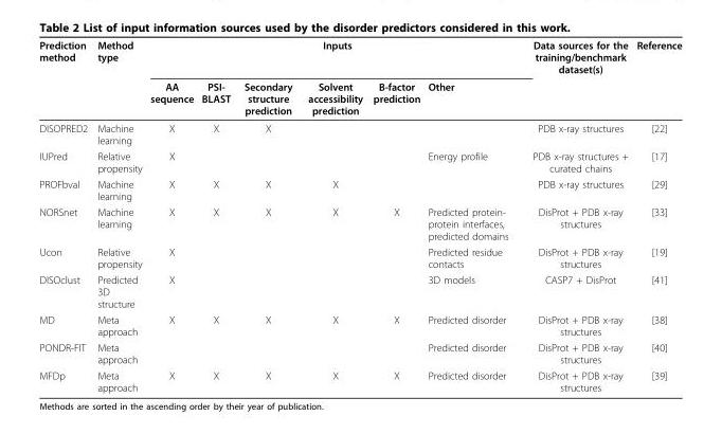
<table><thead><tr><td rowspan="2">Prediction method</td><td rowspan="2">Method type</td><td colspan="6">Inputs</td><td rowspan="2">Data sources for the training/benchmark dataset(s)</td><td rowspan="2">Reference</td></tr><tr><td>AA sequence</td><td>PSI- BLAST</td><td>Secondary structure prediction</td><td>Solvent accessibility prediction</td><td>B-factor prediction</td><td>Other</td></tr></thead><tbody><tr><td>DISOPRED2</td><td>Machine learning</td><td>X</td><td>X</td><td>X</td><td></td><td></td><td></td><td>PDB x-ray structures</td><td>[22]</td></tr><tr><td>IUPred</td><td>Relative propensity</td><td>X</td><td></td><td></td><td></td><td></td><td>Energy profile</td><td>PDB x-ray structures + curated chains</td><td>[17]</td></tr><tr><td>PROFbval</td><td>Machine learning</td><td>X</td><td>X</td><td>X</td><td>X</td><td></td><td></td><td>PDB x-ray structures</td><td>[29]</td></tr><tr><td>NORSnet</td><td>Machine learning</td><td>X</td><td>X</td><td>X</td><td>X</td><td>X</td><td>Predicted protein- protein interfaces, predicted domains</td><td>DisProt + PDB x-ray structures</td><td>[33]</td></tr><tr><td>Ucon</td><td>Relative propensity</td><td>X</td><td></td><td></td><td></td><td></td><td>Predicted residue contacts</td><td>DisProt + PDB x-ray structures</td><td>[19]</td></tr><tr><td>DISOclust</td><td>Predicted 3D structure</td><td>X</td><td></td><td></td><td></td><td></td><td>3D models</td><td>CASP7 + DisProt</td><td>[41]</td></tr><tr><td>MD</td><td>Meta approach</td><td>X</td><td>X</td><td>X</td><td>X</td><td>X</td><td>Predicted disorder</td><td>DisProt + PDB x-ray structures</td><td>[38]</td></tr><tr><td>PONDR-FIT</td><td>Meta approach</td><td></td><td></td><td></td><td></td><td></td><td>Predicted disorder</td><td>DisProt + PDB x-ray structures</td><td>[40]</td></tr><tr><td>MFDp</td><td>Meta approach</td><td>X</td><td>X</td><td>X</td><td>X</td><td>X</td><td>Predicted disorder</td><td>DisProt + PDB x-ray structures</td><td>[39]</td></tr></tbody></table>